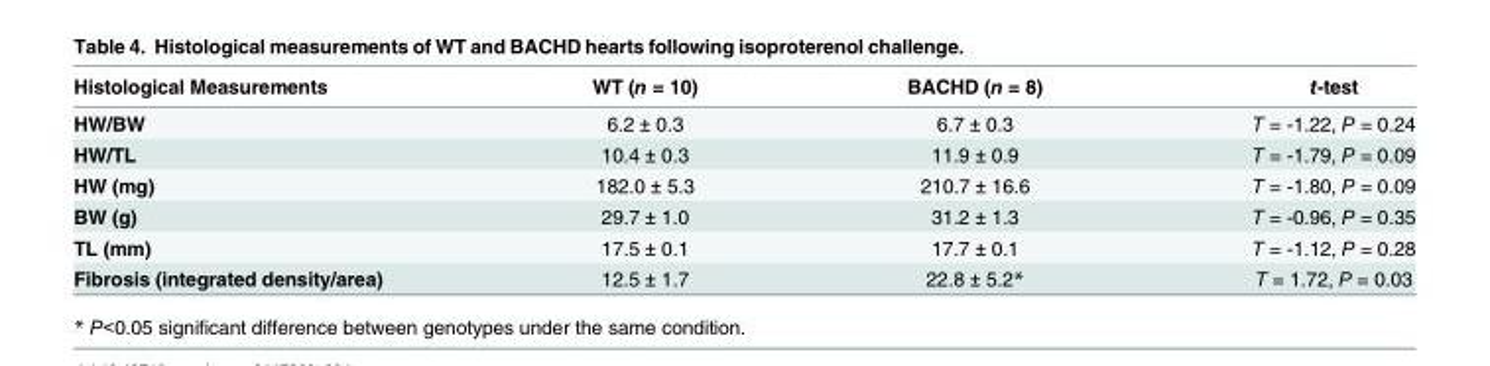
<table><thead><tr><td>Histological Measurements</td><td>WT (n = 10)</td><td>BACHD (n = 8)</td><td>t-test</td></tr></thead><tbody><tr><td>HW/BW</td><td>6.2 ± 0.3</td><td>6.7 ± 0.3</td><td>T = -1.22, P = 0.24</td></tr><tr><td>HW/TL</td><td>10.4 ± 0.3</td><td>11.9 ± 0.9</td><td>T = -1.79, P = 0.09</td></tr><tr><td>HW (mg)</td><td>182.0 ± 5.3</td><td>210.7 ± 16.6</td><td>T = -1.80, P = 0.09</td></tr><tr><td>BW (g)</td><td>29.7 ± 1.0</td><td>31.2 ± 1.3</td><td>T = -0.96, P = 0.35</td></tr><tr><td>TL (mm)</td><td>17.5 ± 0.1</td><td>17.7 ± 0.1</td><td>T = -1.12, P = 0.28</td></tr><tr><td>Fibrosis (integrated density/area)</td><td>12.5 ± 1.7</td><td>22.8 ± 5.2*</td><td>T = 1.72, P = 0.03</td></tr></tbody></table>